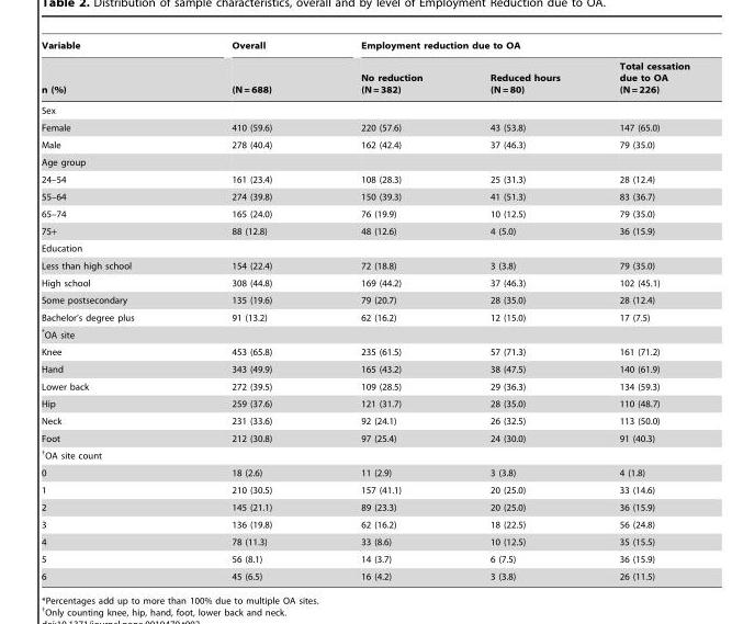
<table><thead><tr><td rowspan="2">Variable n (%)</td><td rowspan="2">Overall (N = 688)</td><td colspan="3">Employment reduction due to OA</td></tr><tr><td>No reduction (N = 382)</td><td>Reduced hours (N = 80)</td><td>Total cessation due to OA (N = 226)</td></tr></thead><tbody><tr><td colspan="5">Sex</td></tr><tr><td>Female</td><td>410 (59.6)</td><td>220 (57.6)</td><td>43 (53.8)</td><td>147 (65.0)</td></tr><tr><td>Male</td><td>278 (40.4)</td><td>162 (42.4)</td><td>37 (46.3)</td><td>79 (35.0)</td></tr><tr><td colspan="5">Age group</td></tr><tr><td>24–54</td><td>161 (23.4)</td><td>108 (28.3)</td><td>25 (31.3)</td><td>28 (12.4)</td></tr><tr><td>55–64</td><td>274 (39.8)</td><td>150 (39.3)</td><td>41 (51.3)</td><td>83 (36.7)</td></tr><tr><td>65–74</td><td>165 (24.0)</td><td>76 (19.9)</td><td>10 (12.5)</td><td>79 (35.0)</td></tr><tr><td>75+</td><td>88 (12.8)</td><td>48 (12.6)</td><td>4 (5.0)</td><td>36 (15.9)</td></tr><tr><td colspan="5">Education</td></tr><tr><td>Less than high school</td><td>154 (22.4)</td><td>72 (18.8)</td><td>3 (3.8)</td><td>79 (35.0)</td></tr><tr><td>High school</td><td>308 (44.8)</td><td>169 (44.2)</td><td>37 (46.3)</td><td>102 (45.1)</td></tr><tr><td>Some postsecondary</td><td>135 (19.6)</td><td>79 (20.7)</td><td>28 (35.0)</td><td>28 (12.4)</td></tr><tr><td>Bachelor’s degree plus</td><td>91 (13.2)</td><td>62 (16.2)</td><td>12 (15.0)</td><td>17 (7.5)</td></tr><tr><td colspan="5">*OA site</td></tr><tr><td>Knee</td><td>453 (65.8)</td><td>235 (61.5)</td><td>57 (71.3)</td><td>161 (71.2)</td></tr><tr><td>Hand</td><td>343 (49.9)</td><td>165 (43.2)</td><td>38 (47.5)</td><td>140 (61.9)</td></tr><tr><td>Lower back</td><td>272 (39.5)</td><td>109 (28.5)</td><td>29 (36.3)</td><td>134 (59.3)</td></tr><tr><td>Hip</td><td>259 (37.6)</td><td>121 (31.7)</td><td>28 (35.0)</td><td>110 (48.7)</td></tr><tr><td>Neck</td><td>231 (33.6)</td><td>92 (24.1)</td><td>26 (32.5)</td><td>113 (50.0)</td></tr><tr><td>Foot</td><td>212 (30.8)</td><td>97 (25.4)</td><td>24 (30.0)</td><td>91 (40.3)</td></tr><tr><td colspan="5">†OA site count</td></tr><tr><td>0</td><td>18 (2.6)</td><td>11 (2.9)</td><td>3 (3.8)</td><td>4 (1.8)</td></tr><tr><td>1</td><td>210 (30.5)</td><td>157 (41.1)</td><td>20 (25.0)</td><td>33 (14.6)</td></tr><tr><td>2</td><td>145 (21.1)</td><td>89 (23.3)</td><td>20 (25.0)</td><td>36 (15.9)</td></tr><tr><td>3</td><td>136 (19.8)</td><td>62 (16.2)</td><td>18 (22.5)</td><td>56 (24.8)</td></tr><tr><td>4</td><td>78 (11.3)</td><td>33 (8.6)</td><td>10 (12.5)</td><td>35 (15.5)</td></tr><tr><td>5</td><td>56 (8.1)</td><td>14 (3.7)</td><td>6 (7.5)</td><td>36 (15.9)</td></tr><tr><td>6</td><td>45 (6.5)</td><td>16 (4.2)</td><td>3 (3.8)</td><td>26 (11.5)</td></tr></tbody></table>